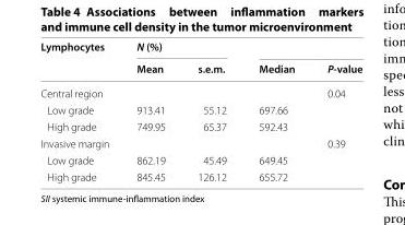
<table><thead><tr><td rowspan="2">Lymphocytes</td><td colspan="2">N (%)</td><td rowspan="2">Median</td><td rowspan="2">P‑value</td></tr><tr><td>Mean</td><td>s.e.m.</td></tr></thead><tbody><tr><td colspan="4">Central region</td><td rowspan="3">0.04</td></tr><tr><td>Low grade</td><td>913.41</td><td>55.12</td><td>697.66</td></tr><tr><td>High grade</td><td>749.95</td><td>65.37</td><td>592.43</td></tr><tr><td colspan="4">Invasive margin</td><td rowspan="3">0.39</td></tr><tr><td>Low grade</td><td>862.19</td><td>45.49</td><td>649.45</td></tr><tr><td>High grade</td><td>845.45</td><td>126.12</td><td>655.72</td></tr></tbody></table>